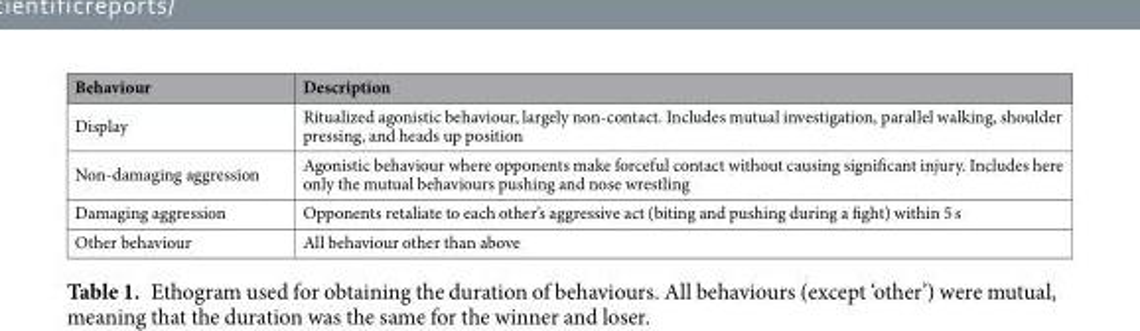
<table><thead><tr><td>Behaviour</td><td>Description</td></tr></thead><tbody><tr><td>Display</td><td>Ritualized agonistic behaviour, largely non-contact. Includes mutual investigation, parallel walking, shoulder pressing, and heads up position</td></tr><tr><td>Non-damaging aggression</td><td>Agonistic behaviour where opponents make forceful contact without causing significant injury. Includes here only the mutual behaviours pushing and nose wrestling</td></tr><tr><td>Damaging aggression</td><td>Opponents retaliate to each other’s aggressive act (biting and pushing during a fight) within 5 s</td></tr><tr><td>Other behaviour</td><td>All behaviour other than above</td></tr></tbody></table>